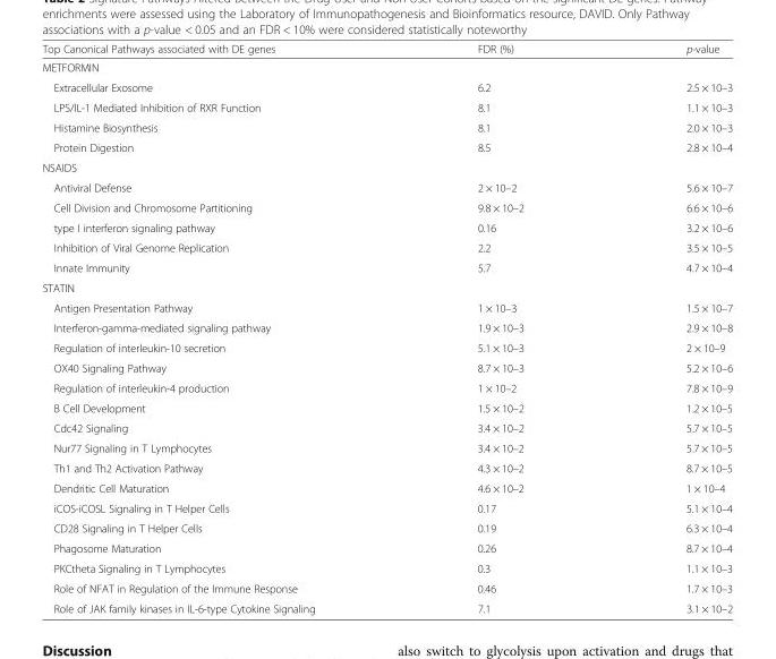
<table><thead><tr><td>Top Canonical Pathways associated with DE genes</td><td>FDR (%)</td><td>p-value</td></tr></thead><tbody><tr><td colspan="3">METFORMIN</td></tr><tr><td>Extracellular Exosome</td><td>6.2</td><td>2.5 × 10–3</td></tr><tr><td>LPS/IL-1 Mediated Inhibition of RXR Function</td><td>8.1</td><td>1.1 × 10–3</td></tr><tr><td>Histamine Biosynthesis</td><td>8.1</td><td>2.0 × 10–3</td></tr><tr><td>Protein Digestion</td><td>8.5</td><td>2.8 × 10–4</td></tr><tr><td colspan="3">NSAIDS</td></tr><tr><td>Antiviral Defense</td><td>2 × 10–2</td><td>5.6 × 10–7</td></tr><tr><td>Cell Division and Chromosome Partitioning</td><td>9.8 × 10–2</td><td>6.6 × 10–6</td></tr><tr><td>type I interferon signaling pathway</td><td>0.16</td><td>3.2 × 10–6</td></tr><tr><td>Inhibition of Viral Genome Replication</td><td>2.2</td><td>3.5 × 10–5</td></tr><tr><td>Innate Immunity</td><td>5.7</td><td>4.7 × 10–4</td></tr><tr><td colspan="3">STATIN</td></tr><tr><td>Antigen Presentation Pathway</td><td>1 × 10–3</td><td>1.5 × 10–7</td></tr><tr><td>Interferon-gamma-mediated signaling pathway</td><td>1.9 × 10–3</td><td>2.9 × 10–8</td></tr><tr><td>Regulation of interleukin-10 secretion</td><td>5.1 × 10–3</td><td>2 × 10–9</td></tr><tr><td>OX40 Signaling Pathway</td><td>8.7 × 10–3</td><td>5.2 × 10–6</td></tr><tr><td>Regulation of interleukin-4 production</td><td>1 × 10–2</td><td>7.8 × 10–9</td></tr><tr><td>B Cell Development</td><td>1.5 × 10–2</td><td>1.2 × 10–5</td></tr><tr><td>Cdc42 Signaling</td><td>3.4 × 10–2</td><td>5.7 × 10–5</td></tr><tr><td>Nur77 Signaling in T Lymphocytes</td><td>3.4 × 10–2</td><td>5.7 × 10–5</td></tr><tr><td>Th1 and Th2 Activation Pathway</td><td>4.3 × 10–2</td><td>8.7 × 10–5</td></tr><tr><td>Dendritic Cell Maturation</td><td>4.6 × 10–2</td><td>1 × 10–4</td></tr><tr><td>iCOS-iCOSL Signaling in T Helper Cells</td><td>0.17</td><td>5.1 × 10–4</td></tr><tr><td>CD28 Signaling in T Helper Cells</td><td>0.19</td><td>6.3 × 10–4</td></tr><tr><td>Phagosome Maturation</td><td>0.26</td><td>8.7 × 10–4</td></tr><tr><td>PKCtheta Signaling in T Lymphocytes</td><td>0.3</td><td>1.1 × 10–3</td></tr><tr><td>Role of NFAT in Regulation of the Immune Response</td><td>0.46</td><td>1.7 × 10–3</td></tr><tr><td>Role of JAK family kinases in IL-6-type Cytokine Signaling</td><td>7.1</td><td>3.1 × 10–2</td></tr></tbody></table>